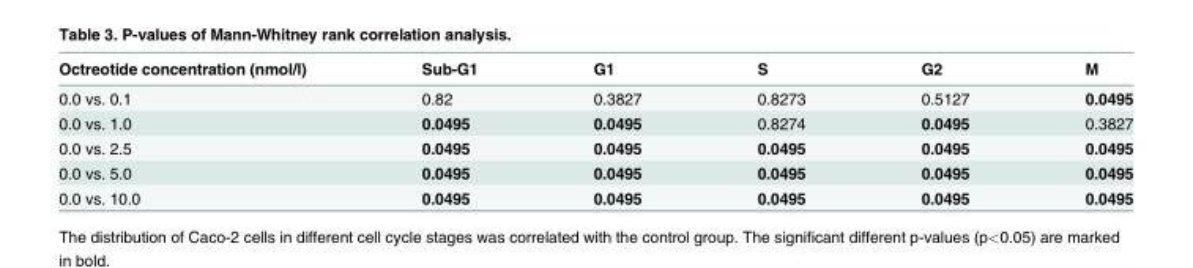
<table><thead><tr><td>Octreotide concentration (nmol/l)</td><td>Sub-G1</td><td>G1</td><td>S</td><td>G2</td><td>M</td></tr></thead><tbody><tr><td>0.0 vs. 0.1</td><td>0.82</td><td>0.3827</td><td>0.8273</td><td>0.5127</td><td>0.0495</td></tr><tr><td>0.0 vs. 1.0</td><td>0.0495</td><td>0.0495</td><td>0.8274</td><td>0.0495</td><td>0.3827</td></tr><tr><td>0.0 vs. 2.5</td><td>0.0495</td><td>0.0495</td><td>0.0495</td><td>0.0495</td><td>0.0495</td></tr><tr><td>0.0 vs. 5.0</td><td>0.0495</td><td>0.0495</td><td>0.0495</td><td>0.0495</td><td>0.0495</td></tr><tr><td>0.0 vs. 10.0</td><td>0.0495</td><td>0.0495</td><td>0.0495</td><td>0.0495</td><td>0.0495</td></tr></tbody></table>